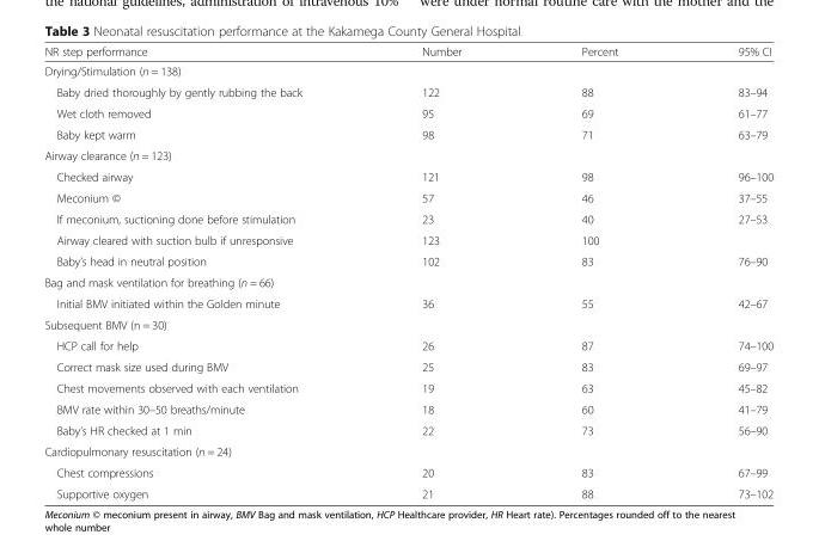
<table><thead><tr><td>NR step performance</td><td>Number</td><td>Percent</td><td>95% CI</td></tr></thead><tbody><tr><td colspan="4">Drying/Stimulation (n = 138)</td></tr><tr><td>Baby dried thoroughly by gently rubbing the back</td><td>122</td><td>88</td><td>83–94</td></tr><tr><td>Wet cloth removed</td><td>95</td><td>69</td><td>61–77</td></tr><tr><td>Baby kept warm</td><td>98</td><td>71</td><td>63–79</td></tr><tr><td colspan="4">Airway clearance (n = 123)</td></tr><tr><td>Checked airway</td><td>121</td><td>98</td><td>96–100</td></tr><tr><td>Meconium ©</td><td>57</td><td>46</td><td>37–55</td></tr><tr><td>If meconium, suctioning done before stimulation</td><td>23</td><td>40</td><td>27–53</td></tr><tr><td>Airway cleared with suction bulb if unresponsive</td><td>123</td><td>100</td><td></td></tr><tr><td>Baby’s head in neutral position</td><td>102</td><td>83</td><td>76–90</td></tr><tr><td colspan="4">Bag and mask ventilation for breathing (n = 66)</td></tr><tr><td>Initial BMV initiated within the Golden minute</td><td>36</td><td>55</td><td>42–67</td></tr><tr><td colspan="4">Subsequent BMV (n = 30)</td></tr><tr><td>HCP call for help</td><td>26</td><td>87</td><td>74–100</td></tr><tr><td>Correct mask size used during BMV</td><td>25</td><td>83</td><td>69–97</td></tr><tr><td>Chest movements observed with each ventilation</td><td>19</td><td>63</td><td>45–82</td></tr><tr><td>BMV rate within 30–50 breaths/minute</td><td>18</td><td>60</td><td>41–79</td></tr><tr><td>Baby’s HR checked at 1 min</td><td>22</td><td>73</td><td>56–90</td></tr><tr><td colspan="4">Cardiopulmonary resuscitation (n = 24)</td></tr><tr><td>Chest compressions</td><td>20</td><td>83</td><td>67–99</td></tr><tr><td>Supportive oxygen</td><td>21</td><td>88</td><td>73–102</td></tr></tbody></table>